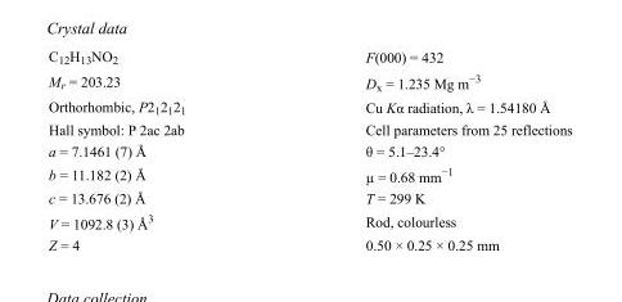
<table><tbody><tr><td>C<sub>12</sub>H<sub>13</sub>NO<sub>2</sub></td><td>F(000) = 432</td></tr><tr><td>M<sub>r</sub> = 203.23</td><td>D<sub>x</sub> = 1.235 Mg m<sup>−3</sup></td></tr><tr><td>Orthorhombic, P2<sub>1</sub>2<sub>1</sub>2<sub>1</sub></td><td>Cu Kα radiation, λ = 1.54180 Å</td></tr><tr><td>Hall symbol: P 2ac 2ab</td><td>Cell parameters from 25 reflections</td></tr><tr><td>a = 7.1461 (7) Å</td><td>θ = 5.1–23.4°</td></tr><tr><td>b = 11.182 (2) Å</td><td>µ = 0.68 mm<sup>−1</sup></td></tr><tr><td>c = 13.676 (2) Å</td><td>T = 299 K</td></tr><tr><td>V = 1092.8 (3) Å<sup>3</sup></td><td>Rod, colourless</td></tr><tr><td>Z = 4</td><td>0.50 × 0.25 × 0.25 mm</td></tr></tbody></table>